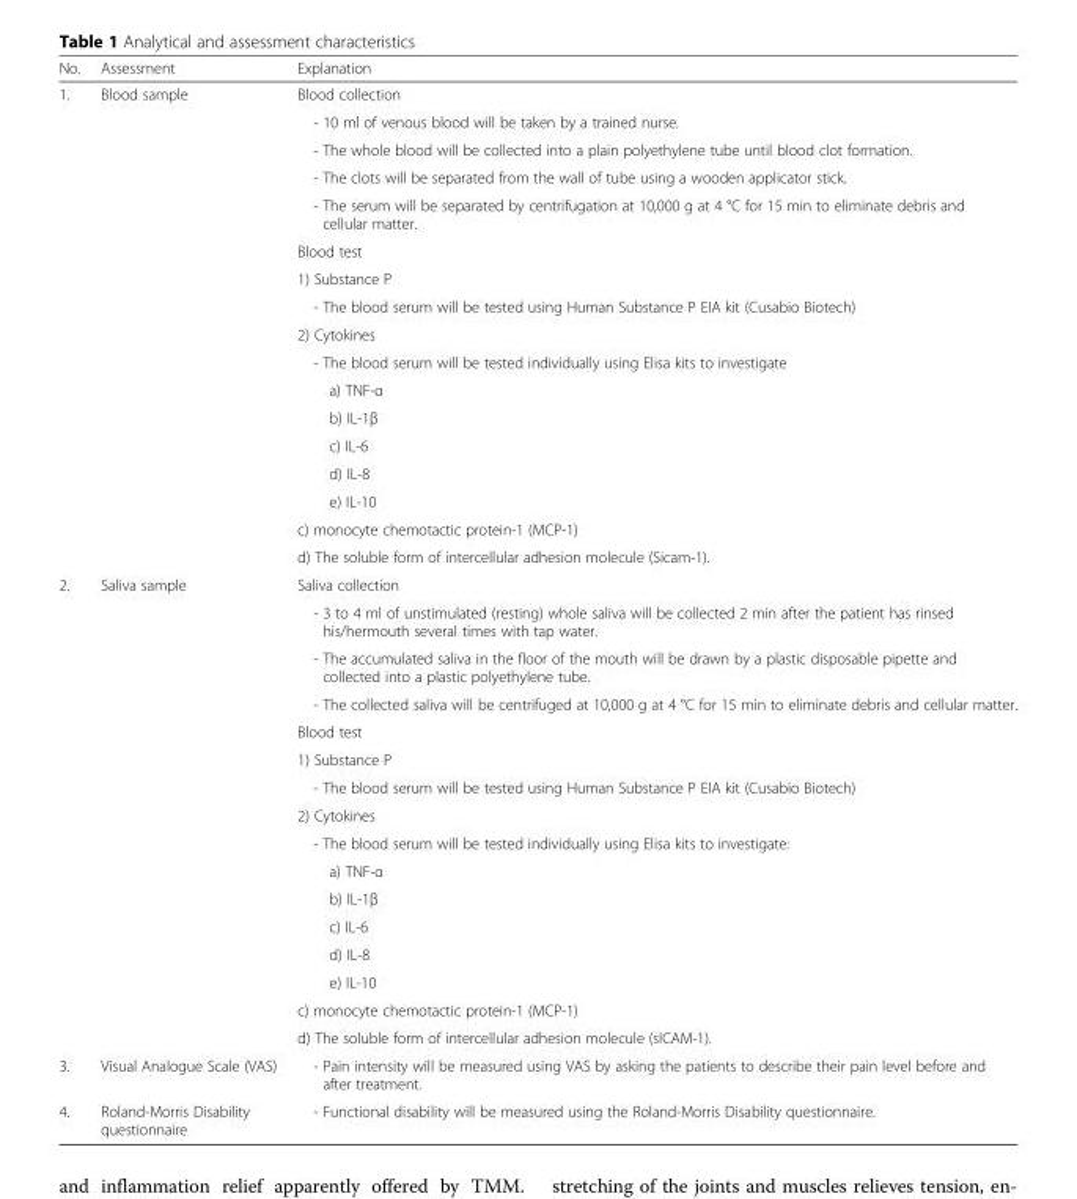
<table><thead><tr><td>No.</td><td>Assessment</td><td>Explanation</td></tr></thead><tbody><tr><td rowspan="17">1.</td><td rowspan="17">Blood sample</td><td>Blood collection</td></tr><tr><td>- 10 ml of venous blood will be taken by a trained nurse.</td></tr><tr><td>- The whole blood will be collected into a plain polyethylene tube until blood clot formation.</td></tr><tr><td>- The clots will be separated from the wall of tube using a wooden applicator stick.</td></tr><tr><td>- The serum will be separated by centrifugation at 10,000 g at 4 °C for 15 min to eliminate debris and cellular matter.</td></tr><tr><td>Blood test</td></tr><tr><td>1) Substance P</td></tr><tr><td>- The blood serum will be tested using Human Substance P EIA kit (Cusabio Biotech)</td></tr><tr><td>2) Cytokines</td></tr><tr><td>- The blood serum will be tested individually using Elisa kits to investigate</td></tr><tr><td>a) TNF-α</td></tr><tr><td>b) IL-1β</td></tr><tr><td>c) IL-6</td></tr><tr><td>d) IL-8</td></tr><tr><td>e) IL-10</td></tr><tr><td>c) monocyte chemotactic protein-1 (MCP-1)</td></tr><tr><td>d) The soluble form of intercellular adhesion molecule (Sicam-1).</td></tr><tr><td rowspan="16">2.</td><td rowspan="16">Saliva sample</td><td>Saliva collection</td></tr><tr><td>- 3 to 4 ml of unstimulated (resting) whole saliva will be collected 2 min after the patient has rinsed his/hermouth several times with tap water.</td></tr><tr><td>- The accumulated saliva in the floor of the mouth will be drawn by a plastic disposable pipette and collected into a plastic polyethylene tube.</td></tr><tr><td>- The collected saliva will be centrifuged at 10,000 g at 4 °C for 15 min to eliminate debris and cellular matter.</td></tr><tr><td>Blood test</td></tr><tr><td>1) Substance P</td></tr><tr><td>- The blood serum will be tested using Human Substance P EIA kit (Cusabio Biotech)</td></tr><tr><td>2) Cytokines</td></tr><tr><td>- The blood serum will be tested individually using Elisa kits to investigate:</td></tr><tr><td>a) TNF-α</td></tr><tr><td>b) IL-1β</td></tr><tr><td>c) IL-6</td></tr><tr><td>d) IL-8</td></tr><tr><td>e) IL-10</td></tr><tr><td>c) monocyte chemotactic protein-1 (MCP-1)</td></tr><tr><td>d) The soluble form of intercellular adhesion molecule (sICAM-1).</td></tr><tr><td>3.</td><td>Visual Analogue Scale (VAS)</td><td>- Pain intensity will be measured using VAS by asking the patients to describe their pain level before and after treatment.</td></tr><tr><td>4.</td><td>Roland-Morris Disability questionnaire</td><td>- Functional disability will be measured using the Roland-Morris Disability questionnaire.</td></tr></tbody></table>